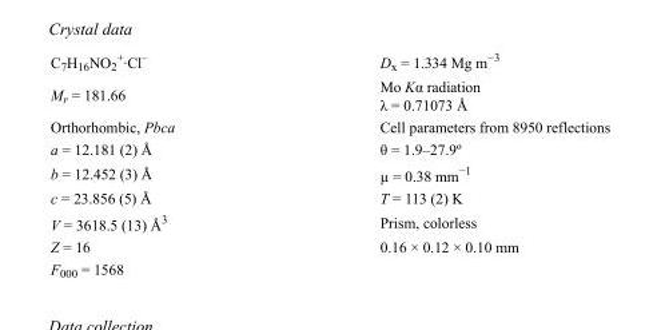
<table><tbody><tr><td>C<sub>7</sub>H<sub>16</sub>NO<sub>2</sub> <sup>+</sup>·Cl<sup>–</sup></td><td>D<sub>x</sub> = 1.334 Mg m<sup>−3</sup></td></tr><tr><td>M<sub>r</sub> = 181.66</td><td>Mo Kα radiation λ = 0.71073 Å</td></tr><tr><td>Orthorhombic, Pbca</td><td>Cell parameters from 8950 reflections</td></tr><tr><td>a = 12.181 (2) Å</td><td>θ = 1.9–27.9º</td></tr><tr><td>b = 12.452 (3) Å</td><td>µ = 0.38 mm<sup>−1</sup></td></tr><tr><td>c = 23.856 (5) Å</td><td>T = 113 (2) K</td></tr><tr><td>V = 3618.5 (13) Å<sup>3</sup></td><td>Prism, colorless</td></tr><tr><td>Z = 16</td><td>0.16 × 0.12 × 0.10 mm</td></tr><tr><td>F000 = 1568</td><td></td></tr></tbody></table>